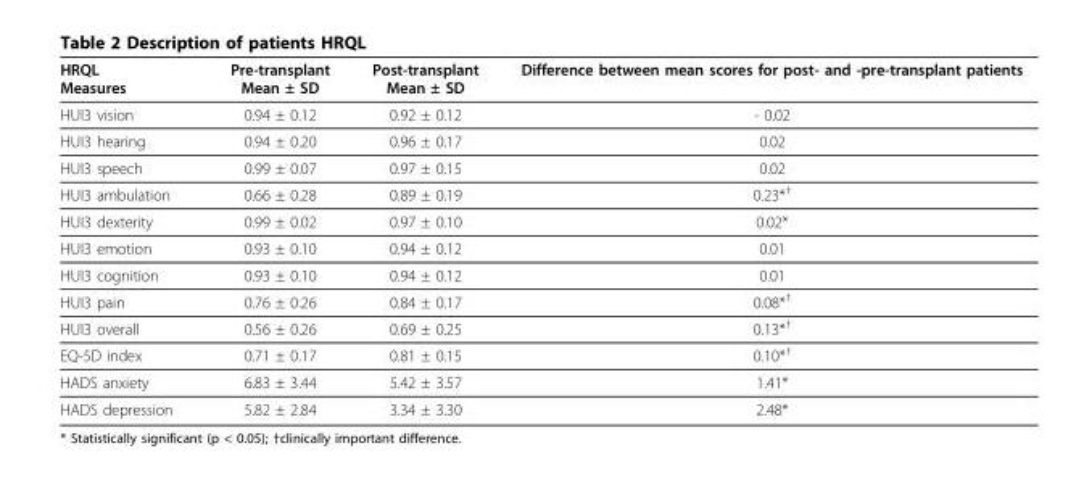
<table><thead><tr><td>HRQL Measures</td><td>Pre-transplant Mean ± SD</td><td>Post-transplant Mean ± SD</td><td>Difference between mean scores for post- and -pre-transplant patients</td></tr></thead><tbody><tr><td>HUI3 vision</td><td>0.94 ± 0.12</td><td>0.92 ± 0.12</td><td>- 0.02</td></tr><tr><td>HUI3 hearing</td><td>0.94 ± 0.20</td><td>0.96 ± 0.17</td><td>0.02</td></tr><tr><td>HUI3 speech</td><td>0.99 ± 0.07</td><td>0.97 ± 0.15</td><td>0.02</td></tr><tr><td>HUI3 ambulation</td><td>0.66 ± 0.28</td><td>0.89 ± 0.19</td><td>0.23*<sup>†</sup></td></tr><tr><td>HUI3 dexterity</td><td>0.99 ± 0.02</td><td>0.97 ± 0.10</td><td>0.02*</td></tr><tr><td>HUI3 emotion</td><td>0.93 ± 0.10</td><td>0.94 ± 0.12</td><td>0.01</td></tr><tr><td>HUI3 cognition</td><td>0.93 ± 0.10</td><td>0.94 ± 0.12</td><td>0.01</td></tr><tr><td>HUI3 pain</td><td>0.76 ± 0.26</td><td>0.84 ± 0.17</td><td>0.08*<sup>†</sup></td></tr><tr><td>HUI3 overall</td><td>0.56 ± 0.26</td><td>0.69 ± 0.25</td><td>0.13*<sup>†</sup></td></tr><tr><td>EQ-5D index</td><td>0.71 ± 0.17</td><td>0.81 ± 0.15</td><td>0.10*<sup>†</sup></td></tr><tr><td>HADS anxiety</td><td>6.83 ± 3.44</td><td>5.42 ± 3.57</td><td>1.41*</td></tr><tr><td>HADS depression</td><td>5.82 ± 2.84</td><td>3.34 ± 3.30</td><td>2.48*</td></tr></tbody></table>